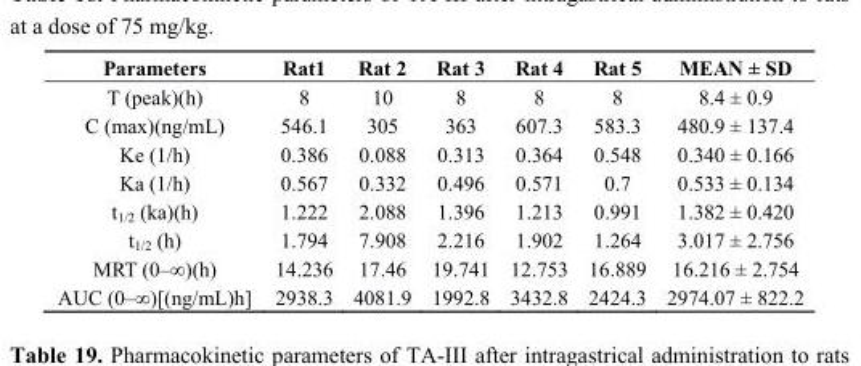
<table><thead><tr><td>Parameters</td><td>Rat1</td><td>Rat 2</td><td>Rat 3</td><td>Rat 4</td><td>Rat 5</td><td>MEAN ± SD</td></tr></thead><tbody><tr><td>T (peak)(h)</td><td>8</td><td>10</td><td>8</td><td>8</td><td>8</td><td>8.4 ± 0.9</td></tr><tr><td>C (max)(ng/mL)</td><td>546.1</td><td>305</td><td>363</td><td>607.3</td><td>583.3</td><td>480.9 ± 137.4</td></tr><tr><td>Ke (1/h)</td><td>0.386</td><td>0.088</td><td>0.313</td><td>0.364</td><td>0.548</td><td>0.340 ± 0.166</td></tr><tr><td>Ka (1/h)</td><td>0.567</td><td>0.332</td><td>0.496</td><td>0.571</td><td>0.7</td><td>0.533 ± 0.134</td></tr><tr><td>t<sub>1/2</sub> (ka)(h)</td><td>1.222</td><td>2.088</td><td>1.396</td><td>1.213</td><td>0.991</td><td>1.382 ± 0.420</td></tr><tr><td>t<sub>1/2</sub> (h)</td><td>1.794</td><td>7.908</td><td>2.216</td><td>1.902</td><td>1.264</td><td>3.017 ± 2.756</td></tr><tr><td>MRT (0–∞)(h)</td><td>14.236</td><td>17.46</td><td>19.741</td><td>12.753</td><td>16.889</td><td>16.216 ± 2.754</td></tr><tr><td>AUC (0–∞)[(ng/mL)h]</td><td>2938.3</td><td>4081.9</td><td>1992.8</td><td>3432.8</td><td>2424.3</td><td>2974.07 ± 822.2</td></tr></tbody></table>